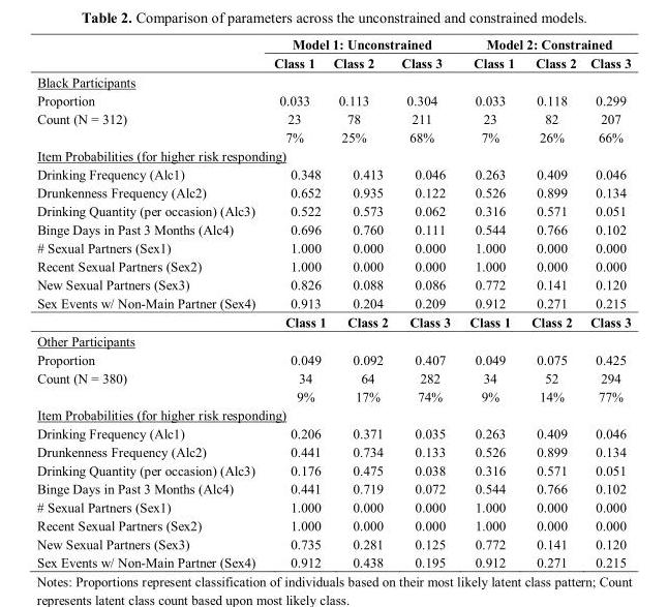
<table><thead><tr><td rowspan="2"></td><td colspan="3">Model 1: Unconstrained</td><td colspan="3">Model 2: Constrained</td></tr><tr><td>Class 1</td><td>Class 2</td><td>Class 3</td><td>Class 1</td><td>Class 2</td><td>Class 3</td></tr></thead><tbody><tr><td colspan="7">Black Participants</td></tr><tr><td>Proportion</td><td>0.033</td><td>0.113</td><td>0.304</td><td>0.033</td><td>0.118</td><td>0.299</td></tr><tr><td rowspan="2">Count (N = 312)</td><td>23</td><td>78</td><td>211</td><td>23</td><td>82</td><td>207</td></tr><tr><td>7%</td><td>25%</td><td>68%</td><td>7%</td><td>26%</td><td>66%</td></tr><tr><td colspan="7">Item Probabilities (for higher risk responding)</td></tr><tr><td>Drinking Frequency (Alc1)</td><td>0.348</td><td>0.413</td><td>0.046</td><td>0.263</td><td>0.409</td><td>0.046</td></tr><tr><td>Drunkenness Frequency (Alc2)</td><td>0.652</td><td>0.935</td><td>0.122</td><td>0.526</td><td>0.899</td><td>0.134</td></tr><tr><td>Drinking Quantity (per occasion) (Alc3)</td><td>0.522</td><td>0.573</td><td>0.062</td><td>0.316</td><td>0.571</td><td>0.051</td></tr><tr><td>Binge Days in Past 3 Months (Alc4)</td><td>0.696</td><td>0.760</td><td>0.111</td><td>0.544</td><td>0.766</td><td>0.102</td></tr><tr><td># Sexual Partners (Sex1)</td><td>1.000</td><td>0.000</td><td>0.000</td><td>1.000</td><td>0.000</td><td>0.000</td></tr><tr><td>Recent Sexual Partners (Sex2)</td><td>1.000</td><td>0.000</td><td>0.000</td><td>1.000</td><td>0.000</td><td>0.000</td></tr><tr><td>New Sexual Partners (Sex3)</td><td>0.826</td><td>0.088</td><td>0.086</td><td>0.772</td><td>0.141</td><td>0.120</td></tr><tr><td rowspan="2">Sex Events w/ Non-Main Partner (Sex4)</td><td>0.913</td><td>0.204</td><td>0.209</td><td>0.912</td><td>0.271</td><td>0.215</td></tr><tr><td>Class 1</td><td>Class 2</td><td>Class 3</td><td>Class 1</td><td>Class 2</td><td>Class 3</td></tr><tr><td colspan="7">Other Participants</td></tr><tr><td>Proportion</td><td>0.049</td><td>0.092</td><td>0.407</td><td>0.049</td><td>0.075</td><td>0.425</td></tr><tr><td rowspan="2">Count (N = 380)</td><td>34</td><td>64</td><td>282</td><td>34</td><td>52</td><td>294</td></tr><tr><td>9%</td><td>17%</td><td>74%</td><td>9%</td><td>14%</td><td>77%</td></tr><tr><td colspan="7">Item Probabilities (for higher risk responding)</td></tr><tr><td>Drinking Frequency (Alc1)</td><td>0.206</td><td>0.371</td><td>0.035</td><td>0.263</td><td>0.409</td><td>0.046</td></tr><tr><td>Drunkenness Frequency (Alc2)</td><td>0.441</td><td>0.734</td><td>0.133</td><td>0.526</td><td>0.899</td><td>0.134</td></tr><tr><td>Drinking Quantity (per occasion) (Alc3)</td><td>0.176</td><td>0.475</td><td>0.038</td><td>0.316</td><td>0.571</td><td>0.051</td></tr><tr><td>Binge Days in Past 3 Months (Alc4)</td><td>0.441</td><td>0.719</td><td>0.072</td><td>0.544</td><td>0.766</td><td>0.102</td></tr><tr><td># Sexual Partners (Sex1)</td><td>1.000</td><td>0.000</td><td>0.000</td><td>1.000</td><td>0.000</td><td>0.000</td></tr><tr><td>Recent Sexual Partners (Sex2)</td><td>1.000</td><td>0.000</td><td>0.000</td><td>1.000</td><td>0.000</td><td>0.000</td></tr><tr><td>New Sexual Partners (Sex3)</td><td>0.735</td><td>0.281</td><td>0.125</td><td>0.772</td><td>0.141</td><td>0.120</td></tr><tr><td>Sex Events w/ Non-Main Partner (Sex4)</td><td>0.912</td><td>0.438</td><td>0.195</td><td>0.912</td><td>0.271</td><td>0.215</td></tr></tbody></table>